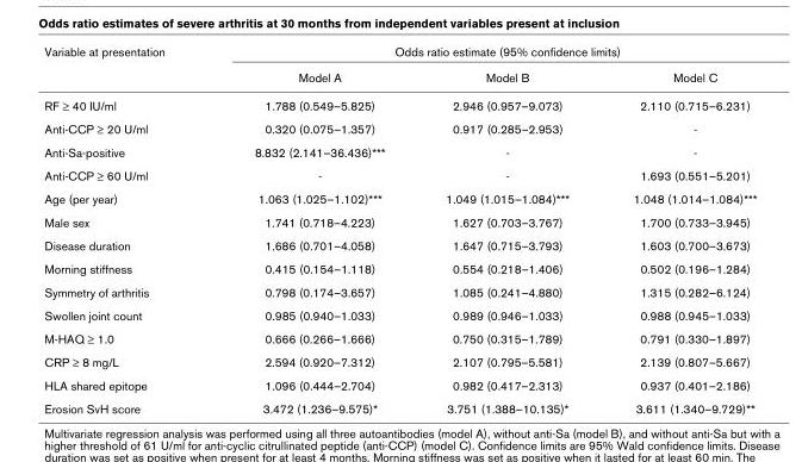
<table><thead><tr><td rowspan="2">Variable at presentation</td><td colspan="3">Odds ratio estimate (95% confidence limits)</td></tr><tr><td>Model A</td><td>Model B</td><td>Model C</td></tr></thead><tbody><tr><td>RF ≥ 40 IU/ml</td><td>1.788 (0.549–5.825)</td><td>2.946 (0.957–9.073)</td><td>2.110 (0.715–6.231)</td></tr><tr><td>Anti-CCP ≥ 20 U/ml</td><td>0.320 (0.075–1.357)</td><td>0.917 (0.285–2.953)</td><td>-</td></tr><tr><td>Anti-Sa-positive</td><td>8.832 (2.141–36.436)***</td><td>-</td><td>-</td></tr><tr><td>Anti-CCP ≥ 60 U/ml</td><td>-</td><td>-</td><td>1.693 (0.551–5.201)</td></tr><tr><td>Age (per year)</td><td>1.063 (1.025–1.102)***</td><td>1.049 (1.015–1.084)***</td><td>1.048 (1.014–1.084)***</td></tr><tr><td>Male sex</td><td>1.741 (0.718–4.223)</td><td>1.627 (0.703–3.767)</td><td>1.700 (0.733–3.945)</td></tr><tr><td>Disease duration</td><td>1.686 (0.701–4.058)</td><td>1.647 (0.715–3.793)</td><td>1.603 (0.700–3.673)</td></tr><tr><td>Morning stiffness</td><td>0.415 (0.154–1.118)</td><td>0.554 (0.218–1.406)</td><td>0.502 (0.196–1.284)</td></tr><tr><td>Symmetry of arthritis</td><td>0.798 (0.174–3.657)</td><td>1.085 (0.241–4.880)</td><td>1.315 (0.282–6.124)</td></tr><tr><td>Swollen joint count</td><td>0.985 (0.940–1.033)</td><td>0.989 (0.946–1.033)</td><td>0.988 (0.945–1.033)</td></tr><tr><td>M-HAQ ≥ 1.0</td><td>0.666 (0.266–1.666)</td><td>0.750 (0.315–1.789)</td><td>0.791 (0.330–1.897)</td></tr><tr><td>CRP ≥ 8 mg/L</td><td>2.594 (0.920–7.312)</td><td>2.107 (0.795–5.581)</td><td>2.139 (0.807–5.667)</td></tr><tr><td>HLA shared epitope</td><td>1.096 (0.444–2.704)</td><td>0.982 (0.417–2.313)</td><td>0.937 (0.401–2.186)</td></tr><tr><td>Erosion SvH score</td><td>3.472 (1.236–9.575)*</td><td>3.751 (1.388–10.135)*</td><td>3.611 (1.340–9.729)**</td></tr></tbody></table>